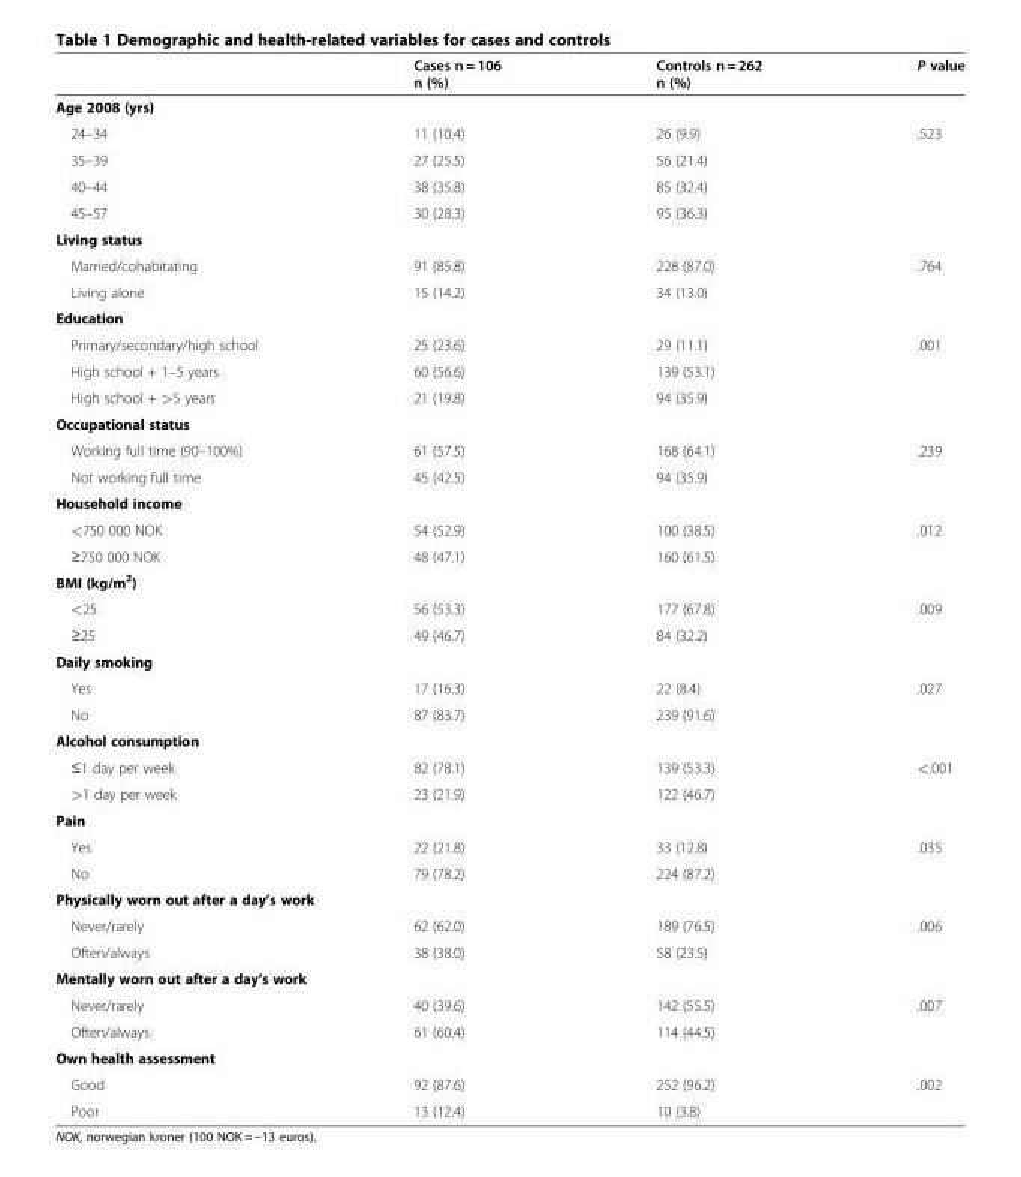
<table><thead><tr><td rowspan="2"></td><td rowspan="2">Cases n = 106 n (%)</td><td rowspan="2">Controls n = 262 n (%)</td><td rowspan="2">P value</td></tr><tr></tr></thead><tbody><tr><td colspan="4">Age 2008 (yrs)</td></tr><tr><td>24–34</td><td>11 (10.4)</td><td>26 (9.9)</td><td rowspan="4">.523</td></tr><tr><td>35–39</td><td>27 (25.5)</td><td>56 (21.4)</td></tr><tr><td>40–44</td><td>38 (35.8)</td><td>85 (32.4)</td></tr><tr><td>45–57</td><td>30 (28.3)</td><td>95 (36.3)</td></tr><tr><td colspan="4">Living status</td></tr><tr><td>Married/cohabitating</td><td>91 (85.8)</td><td>228 (87.0)</td><td rowspan="2">.764</td></tr><tr><td>Living alone</td><td>15 (14.2)</td><td>34 (13.0)</td></tr><tr><td colspan="4">Education</td></tr><tr><td>Primary/secondary/high school</td><td>25 (23.6)</td><td>29 (11.1)</td><td rowspan="3">.001</td></tr><tr><td>High school + 1–5 years</td><td>60 (56.6)</td><td>139 (53.1)</td></tr><tr><td>High school + &gt;5 years</td><td>21 (19.8)</td><td>94 (35.9)</td></tr><tr><td colspan="4">Occupational status</td></tr><tr><td>Working full time (90–100%)</td><td>61 (57.5)</td><td>168 (64.1)</td><td rowspan="2">.239</td></tr><tr><td>Not working full time</td><td>45 (42.5)</td><td>94 (35.9)</td></tr><tr><td colspan="4">Household income</td></tr><tr><td>&lt;750 000 NOK</td><td>54 (52.9)</td><td>100 (38.5)</td><td rowspan="2">.012</td></tr><tr><td>≥750 000 NOK</td><td>48 (47.1)</td><td>160 (61.5)</td></tr><tr><td colspan="4">BMI (kg/m<sup>2</sup>)</td></tr><tr><td>&lt;25</td><td>56 (53.3)</td><td>177 (67.8)</td><td rowspan="2">.009</td></tr><tr><td>≥25</td><td>49 (46.7)</td><td>84 (32.2)</td></tr><tr><td colspan="4">Daily smoking</td></tr><tr><td>Yes</td><td>17 (16.3)</td><td>22 (8.4)</td><td rowspan="2">.027</td></tr><tr><td>No</td><td>87 (83.7)</td><td>239 (91.6)</td></tr><tr><td colspan="4">Alcohol consumption</td></tr><tr><td>≤1 day per week</td><td>82 (78.1)</td><td>139 (53.3)</td><td rowspan="2">&lt;.001</td></tr><tr><td>&gt;1 day per week</td><td>23 (21.9)</td><td>122 (46.7)</td></tr><tr><td colspan="4">Pain</td></tr><tr><td>Yes</td><td>22 (21.8)</td><td>33 (12.8)</td><td rowspan="2">.035</td></tr><tr><td>No</td><td>79 (78.2)</td><td>224 (87.2)</td></tr><tr><td colspan="4">Physically worn out after a day’s work</td></tr><tr><td>Never/rarely</td><td>62 (62.0)</td><td>189 (76.5)</td><td rowspan="2">.006</td></tr><tr><td>Often/always</td><td>38 (38.0)</td><td>58 (23.5)</td></tr><tr><td colspan="4">Mentally worn out after a day’s work</td></tr><tr><td>Never/rarely</td><td>40 (39.6)</td><td>142 (55.5)</td><td rowspan="2">.007</td></tr><tr><td>Often/always</td><td>61 (60.4)</td><td>114 (44.5)</td></tr><tr><td colspan="4">Own health assessment</td></tr><tr><td>Good</td><td>92 (87.6)</td><td>252 (96.2)</td><td rowspan="2">.002</td></tr><tr><td>Poor</td><td>13 (12.4)</td><td>10 (3.8)</td></tr></tbody></table>